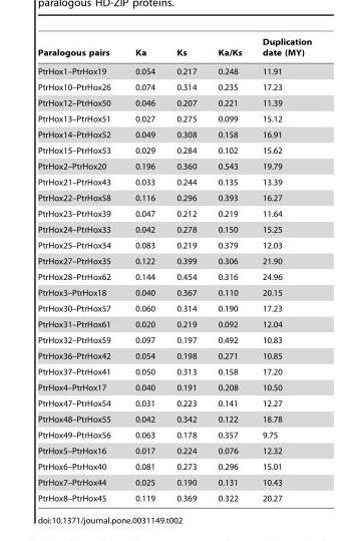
<table><thead><tr><td>Paralogous pairs</td><td>Ka</td><td>Ks</td><td>Ka/Ks</td><td>Duplication date (MY)</td></tr></thead><tbody><tr><td>PtrHox1–PtrHox19</td><td>0.054</td><td>0.217</td><td>0.248</td><td>11.91</td></tr><tr><td>PtrHox10–PtrHox26</td><td>0.074</td><td>0.314</td><td>0.235</td><td>17.23</td></tr><tr><td>PtrHox12–PtrHox50</td><td>0.046</td><td>0.207</td><td>0.221</td><td>11.39</td></tr><tr><td>PtrHox13–PtrHox51</td><td>0.027</td><td>0.275</td><td>0.099</td><td>15.12</td></tr><tr><td>PtrHox14–PtrHox52</td><td>0.049</td><td>0.308</td><td>0.158</td><td>16.91</td></tr><tr><td>PtrHox15–PtrHox53</td><td>0.029</td><td>0.284</td><td>0.102</td><td>15.62</td></tr><tr><td>PtrHox2–PtrHox20</td><td>0.196</td><td>0.360</td><td>0.543</td><td>19.79</td></tr><tr><td>PtrHox21–PtrHox43</td><td>0.033</td><td>0.244</td><td>0.135</td><td>13.39</td></tr><tr><td>PtrHox22–PtrHox58</td><td>0.116</td><td>0.296</td><td>0.393</td><td>16.27</td></tr><tr><td>PtrHox23–PtrHox39</td><td>0.047</td><td>0.212</td><td>0.219</td><td>11.64</td></tr><tr><td>PtrHox24–PtrHox33</td><td>0.042</td><td>0.278</td><td>0.150</td><td>15.25</td></tr><tr><td>PtrHox25–PtrHox34</td><td>0.083</td><td>0.219</td><td>0.379</td><td>12.03</td></tr><tr><td>PtrHox27–PtrHox35</td><td>0.122</td><td>0.399</td><td>0.306</td><td>21.90</td></tr><tr><td>PtrHox28–PtrHox62</td><td>0.144</td><td>0.454</td><td>0.316</td><td>24.96</td></tr><tr><td>PtrHox3–PtrHox18</td><td>0.040</td><td>0.367</td><td>0.110</td><td>20.15</td></tr><tr><td>PtrHox30–PtrHox57</td><td>0.060</td><td>0.314</td><td>0.190</td><td>17.23</td></tr><tr><td>PtrHox31–PtrHox61</td><td>0.020</td><td>0.219</td><td>0.092</td><td>12.04</td></tr><tr><td>PtrHox32–PtrHox59</td><td>0.097</td><td>0.197</td><td>0.492</td><td>10.83</td></tr><tr><td>PtrHox36–PtrHox42</td><td>0.054</td><td>0.198</td><td>0.271</td><td>10.85</td></tr><tr><td>PtrHox37–PtrHox41</td><td>0.050</td><td>0.313</td><td>0.158</td><td>17.20</td></tr><tr><td>PtrHox4–PtrHox17</td><td>0.040</td><td>0.191</td><td>0.208</td><td>10.50</td></tr><tr><td>PtrHox47–PtrHox54</td><td>0.031</td><td>0.223</td><td>0.141</td><td>12.27</td></tr><tr><td>PtrHox48–PtrHox55</td><td>0.042</td><td>0.342</td><td>0.122</td><td>18.78</td></tr><tr><td>PtrHox49–PtrHox56</td><td>0.063</td><td>0.178</td><td>0.357</td><td>9.75</td></tr><tr><td>PtrHox5–PtrHox16</td><td>0.017</td><td>0.224</td><td>0.076</td><td>12.32</td></tr><tr><td>PtrHox6–PtrHox40</td><td>0.081</td><td>0.273</td><td>0.296</td><td>15.01</td></tr><tr><td>PtrHox7–PtrHox44</td><td>0.025</td><td>0.190</td><td>0.131</td><td>10.43</td></tr><tr><td>PtrHox8–PtrHox45</td><td>0.119</td><td>0.369</td><td>0.322</td><td>20.27</td></tr></tbody></table>